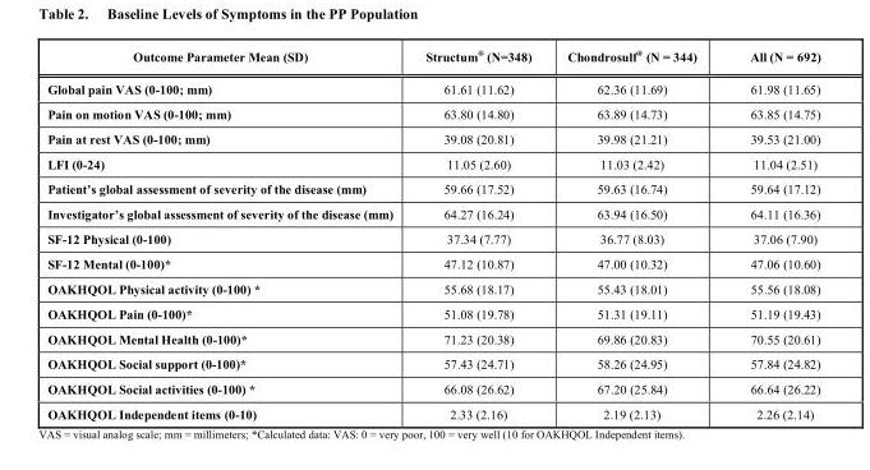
<table><thead><tr><td>Outcome Parameter Mean (SD)</td><td>Structum<sup>®</sup> (N=348)</td><td>Chondrosulf<sup>®</sup> (N = 344)</td><td>All (N = 692)</td></tr></thead><tbody><tr><td>Global pain VAS (0-100; mm)</td><td>61.61 (11.62)</td><td>62.36 (11.69)</td><td>61.98 (11.65)</td></tr><tr><td>Pain on motion VAS (0-100; mm)</td><td>63.80 (14.80)</td><td>63.89 (14.73)</td><td>63.85 (14.75)</td></tr><tr><td>Pain at rest VAS (0-100; mm)</td><td>39.08 (20.81)</td><td>39.98 (21.21)</td><td>39.53 (21.00)</td></tr><tr><td>LFI (0-24)</td><td>11.05 (2.60)</td><td>11.03 (2.42)</td><td>11.04 (2.51)</td></tr><tr><td>Patient’s global assessment of severity of the disease (mm)</td><td>59.66 (17.52)</td><td>59.63 (16.74)</td><td>59.64 (17.12)</td></tr><tr><td>Investigator’s global assessment of severity of the disease (mm)</td><td>64.27 (16.24)</td><td>63.94 (16.50)</td><td>64.11 (16.36)</td></tr><tr><td>SF-12 Physical (0-100)</td><td>37.34 (7.77)</td><td>36.77 (8.03)</td><td>37.06 (7.90)</td></tr><tr><td>SF-12 Mental (0-100)*</td><td>47.12 (10.87)</td><td>47.00 (10.32)</td><td>47.06 (10.60)</td></tr><tr><td>OAKHQOL Physical activity (0-100) *</td><td>55.68 (18.17)</td><td>55.43 (18.01)</td><td>55.56 (18.08)</td></tr><tr><td>OAKHQOL Pain (0-100)*</td><td>51.08 (19.78)</td><td>51.31 (19.11)</td><td>51.19 (19.43)</td></tr><tr><td>OAKHQOL Mental Health (0-100)*</td><td>71.23 (20.38)</td><td>69.86 (20.83)</td><td>70.55 (20.61)</td></tr><tr><td>OAKHQOL Social support (0-100)*</td><td>57.43 (24.71)</td><td>58.26 (24.95)</td><td>57.84 (24.82)</td></tr><tr><td>OAKHQOL Social activities (0-100) *</td><td>66.08 (26.62)</td><td>67.20 (25.84)</td><td>66.64 (26.22)</td></tr><tr><td>OAKHQOL Independent items (0-10)</td><td>2.33 (2.16)</td><td>2.19 (2.13)</td><td>2.26 (2.14)</td></tr></tbody></table>